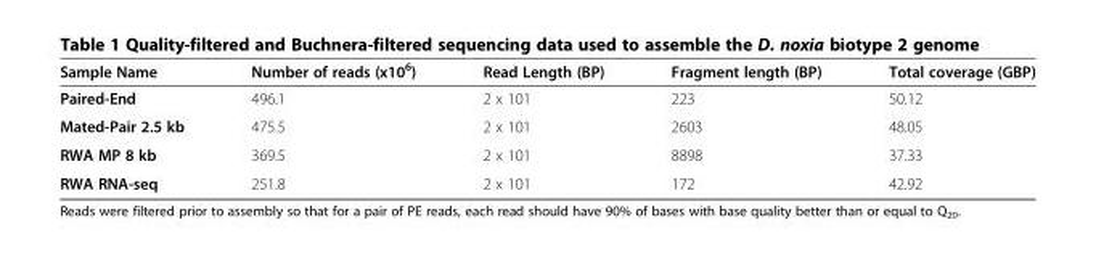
<table><thead><tr><td>Sample Name</td><td>Number of reads (x10<sup>6</sup>)</td><td>Read Length (BP)</td><td>Fragment length (BP)</td><td>Total coverage (GBP)</td></tr></thead><tbody><tr><td>Paired-End</td><td>496.1</td><td>2 x 101</td><td>223</td><td>50.12</td></tr><tr><td>Mated-Pair 2.5 kb</td><td>475.5</td><td>2 x 101</td><td>2603</td><td>48.05</td></tr><tr><td>RWA MP 8 kb</td><td>369.5</td><td>2 x 101</td><td>8898</td><td>37.33</td></tr><tr><td>RWA RNA-seq</td><td>251.8</td><td>2 x 101</td><td>172</td><td>42.92</td></tr></tbody></table>